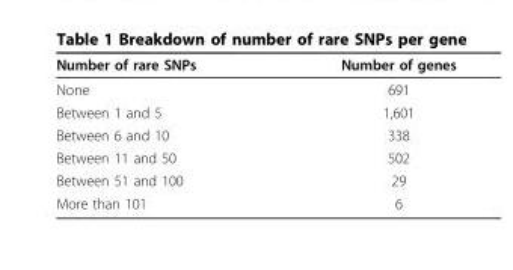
<table><thead><tr><td>Number of rare SNPs</td><td>Number of genes</td></tr></thead><tbody><tr><td>None</td><td>691</td></tr><tr><td>Between 1 and 5</td><td>1,601</td></tr><tr><td>Between 6 and 10</td><td>338</td></tr><tr><td>Between 11 and 50</td><td>502</td></tr><tr><td>Between 51 and 100</td><td>29</td></tr><tr><td>More than 101</td><td>6</td></tr></tbody></table>